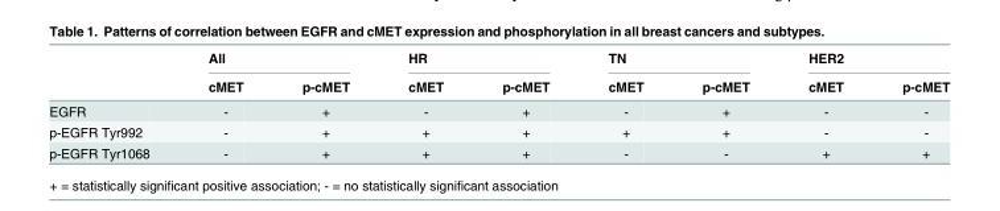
<table><thead><tr><td rowspan="2"></td><td colspan="2">All</td><td colspan="2">HR</td><td colspan="2">TN</td><td colspan="2">HER2</td></tr><tr><td>cMET</td><td>p-cMET</td><td>cMET</td><td>p-cMET</td><td>cMET</td><td>p-cMET</td><td>cMET</td><td>p-cMET</td></tr></thead><tbody><tr><td>EGFR</td><td>-</td><td>+</td><td>-</td><td>+</td><td>-</td><td>+</td><td>-</td><td>-</td></tr><tr><td>p-EGFR Tyr992</td><td>-</td><td>+</td><td>+</td><td>+</td><td>+</td><td>+</td><td>-</td><td>-</td></tr><tr><td>p-EGFR Tyr1068</td><td>-</td><td>+</td><td>+</td><td>+</td><td>-</td><td>-</td><td>+</td><td>+</td></tr></tbody></table>